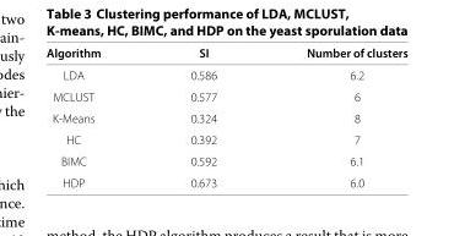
<table><thead><tr><td>Algorithm</td><td>SI</td><td>Number of clusters</td></tr></thead><tbody><tr><td>LDA</td><td>0.586</td><td>6.2</td></tr><tr><td>MCLUST</td><td>0.577</td><td>6</td></tr><tr><td>K-Means</td><td>0.324</td><td>8</td></tr><tr><td>HC</td><td>0.392</td><td>7</td></tr><tr><td>BIMC</td><td>0.592</td><td>6.1</td></tr><tr><td>HDP</td><td>0.673</td><td>6.0</td></tr></tbody></table>